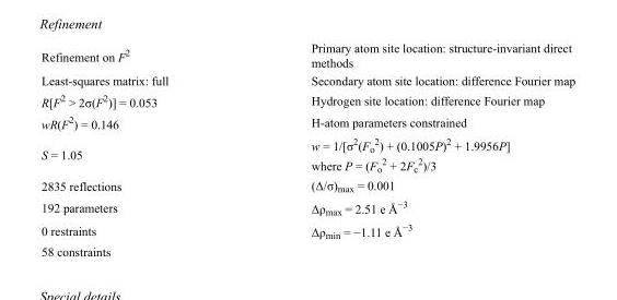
<table><tbody><tr><td>Refinement on F<sup>2</sup></td><td>Primary atom site location: structure-invariant direct methods</td></tr><tr><td>Least-squares matrix: full</td><td>Secondary atom site location: difference Fourier map</td></tr><tr><td>R[F<sup>2</sup> &gt; 2σ(F<sup>2</sup>)] = 0.053</td><td>Hydrogen site location: difference Fourier map</td></tr><tr><td>wR(F<sup>2</sup>) = 0.146</td><td>H-atom parameters constrained</td></tr><tr><td>S = 1.05</td><td>w = 1/[σ<sup>2</sup>(F<sub>o</sub> <sup>2</sup>) + (0.1005P)<sup>2</sup> + 1.9956P] where P = (F<sub>o</sub> <sup>2</sup> + 2F<sub>c</sub> <sup>2</sup>)/3</td></tr><tr><td>2835 reflections</td><td>(Δ/σ)<sub>max</sub> = 0.001</td></tr><tr><td>192 parameters</td><td>Δρ<sub>max</sub> = 2.51 e Å<sup>−3</sup></td></tr><tr><td>0 restraints</td><td>Δρ<sub>min</sub> = −1.11 e Å<sup>−3</sup></td></tr><tr><td>58 constraints</td><td></td></tr></tbody></table>